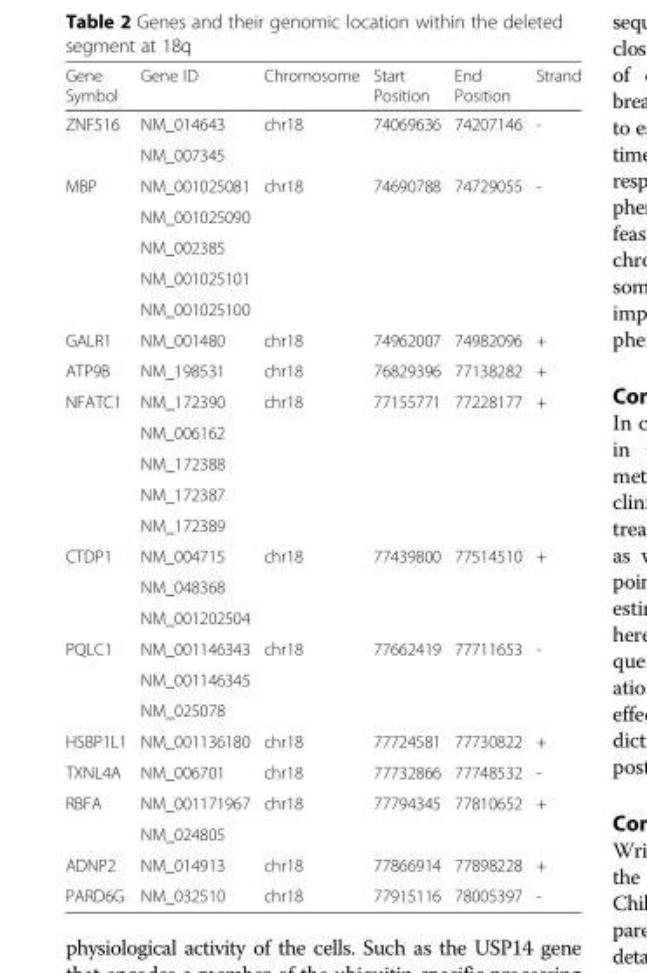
<table><thead><tr><td>Gene Symbol</td><td>Gene ID</td><td>Chromosome</td><td>Start Position</td><td>End Position</td><td>Strand</td></tr></thead><tbody><tr><td rowspan="2">ZNF516</td><td>NM_014643</td><td rowspan="2">chr18</td><td rowspan="2">74069636</td><td rowspan="2">74207146</td><td rowspan="2">-</td></tr><tr><td>NM_007345</td></tr><tr><td rowspan="5">MBP</td><td>NM_001025081</td><td rowspan="5">chr18</td><td rowspan="5">74690788</td><td rowspan="5">74729055</td><td rowspan="5">-</td></tr><tr><td>NM_001025090</td></tr><tr><td>NM_002385</td></tr><tr><td>NM_001025101</td></tr><tr><td>NM_001025100</td></tr><tr><td>GALR1</td><td>NM_001480</td><td>chr18</td><td>74962007</td><td>74982096</td><td>+</td></tr><tr><td>ATP9B</td><td>NM_198531</td><td>chr18</td><td>76829396</td><td>77138282</td><td>+</td></tr><tr><td rowspan="5">NFATC1</td><td>NM_172390</td><td rowspan="5">chr18</td><td rowspan="5">77155771</td><td rowspan="5">77228177</td><td rowspan="5">+</td></tr><tr><td>NM_006162</td></tr><tr><td>NM_172388</td></tr><tr><td>NM_172387</td></tr><tr><td>NM_172389</td></tr><tr><td rowspan="3">CTDP1</td><td>NM_004715</td><td rowspan="3">chr18</td><td rowspan="3">77439800</td><td rowspan="3">77514510</td><td rowspan="3">+</td></tr><tr><td>NM_048368</td></tr><tr><td>NM_001202504</td></tr><tr><td rowspan="3">PQLC1</td><td>NM_001146343</td><td rowspan="3">chr18</td><td rowspan="3">77662419</td><td rowspan="3">77711653</td><td rowspan="3">-</td></tr><tr><td>NM_001146345</td></tr><tr><td>NM_025078</td></tr><tr><td>HSBP1L1</td><td>NM_001136180</td><td>chr18</td><td>77724581</td><td>77730822</td><td>+</td></tr><tr><td>TXNL4A</td><td>NM_006701</td><td>chr18</td><td>77732866</td><td>77748532</td><td>-</td></tr><tr><td rowspan="2">RBFA</td><td>NM_001171967</td><td rowspan="2">chr18</td><td rowspan="2">77794345</td><td rowspan="2">77810652</td><td rowspan="2">+</td></tr><tr><td>NM_024805</td></tr><tr><td>ADNP2</td><td>NM_014913</td><td>chr18</td><td>77866914</td><td>77898228</td><td>+</td></tr><tr><td>PARD6G</td><td>NM_032510</td><td>chr18</td><td>77915116</td><td>78005397</td><td>-</td></tr></tbody></table>